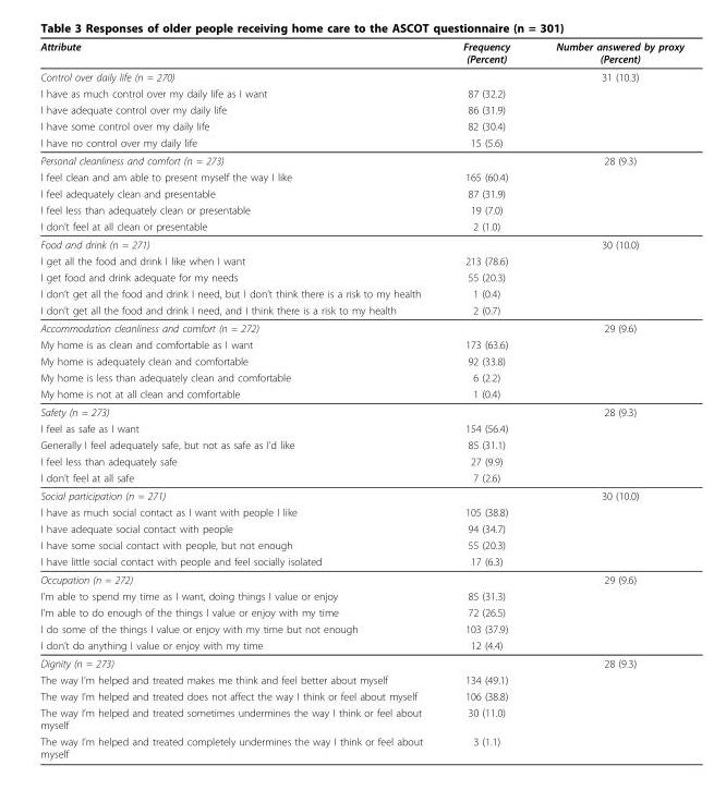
<table><thead><tr><td>Attribute</td><td>Frequency (Percent)</td><td>Number answered by proxy (Percent)</td></tr></thead><tbody><tr><td>Control over daily life (n = 270)</td><td></td><td>31 (10.3)</td></tr><tr><td>I have as much control over my daily life as I want</td><td>87 (32.2)</td><td></td></tr><tr><td>I have adequate control over my daily life</td><td>86 (31.9)</td><td></td></tr><tr><td>I have some control over my daily life</td><td>82 (30.4)</td><td></td></tr><tr><td>I have no control over my daily life</td><td>15 (5.6)</td><td></td></tr><tr><td>Personal cleanliness and comfort (n = 273)</td><td></td><td>28 (9.3)</td></tr><tr><td>I feel clean and am able to present myself the way I like</td><td>165 (60.4)</td><td></td></tr><tr><td>I feel adequately clean and presentable</td><td>87 (31.9)</td><td></td></tr><tr><td>I feel less than adequately clean or presentable</td><td>19 (7.0)</td><td></td></tr><tr><td>I don’t feel at all clean or presentable</td><td>2 (1.0)</td><td></td></tr><tr><td>Food and drink (n = 271)</td><td></td><td>30 (10.0)</td></tr><tr><td>I get all the food and drink I like when I want</td><td>213 (78.6)</td><td></td></tr><tr><td>I get food and drink adequate for my needs</td><td>55 (20.3)</td><td></td></tr><tr><td>I don’t get all the food and drink I need, but I don’t think there is a risk to my health</td><td>1 (0.4)</td><td></td></tr><tr><td>I don’t get all the food and drink I need, and I think there is a risk to my health</td><td>2 (0.7)</td><td></td></tr><tr><td>Accommodation cleanliness and comfort (n = 272)</td><td></td><td>29 (9.6)</td></tr><tr><td>My home is as clean and comfortable as I want</td><td>173 (63.6)</td><td></td></tr><tr><td>My home is adequately clean and comfortable</td><td>92 (33.8)</td><td></td></tr><tr><td>My home is less than adequately clean and comfortable</td><td>6 (2.2)</td><td></td></tr><tr><td>My home is not at all clean and comfortable</td><td>1 (0.4)</td><td></td></tr><tr><td>Safety (n = 273)</td><td></td><td>28 (9.3)</td></tr><tr><td>I feel as safe as I want</td><td>154 (56.4)</td><td></td></tr><tr><td>Generally I feel adequately safe, but not as safe as I’d like</td><td>85 (31.1)</td><td></td></tr><tr><td>I feel less than adequately safe</td><td>27 (9.9)</td><td></td></tr><tr><td>I don’t feel at all safe</td><td>7 (2.6)</td><td></td></tr><tr><td>Social participation (n = 271)</td><td></td><td>30 (10.0)</td></tr><tr><td>I have as much social contact as I want with people I like</td><td>105 (38.8)</td><td></td></tr><tr><td>I have adequate social contact with people</td><td>94 (34.7)</td><td></td></tr><tr><td>I have some social contact with people, but not enough</td><td>55 (20.3)</td><td></td></tr><tr><td>I have little social contact with people and feel socially isolated</td><td>17 (6.3)</td><td></td></tr><tr><td>Occupation (n = 272)</td><td></td><td>29 (9.6)</td></tr><tr><td>I’m able to spend my time as I want, doing things I value or enjoy</td><td>85 (31.3)</td><td></td></tr><tr><td>I’m able to do enough of the things I value or enjoy with my time</td><td>72 (26.5)</td><td></td></tr><tr><td>I do some of the things I value or enjoy with my time but not enough</td><td>103 (37.9)</td><td></td></tr><tr><td>I don’t do anything I value or enjoy with my time</td><td>12 (4.4)</td><td></td></tr><tr><td>Dignity (n = 273)</td><td></td><td>28 (9.3)</td></tr><tr><td>The way I’m helped and treated makes me think and feel better about myself</td><td>134 (49.1)</td><td></td></tr><tr><td>The way I’m helped and treated does not affect the way I think or feel about myself</td><td>106 (38.8)</td><td></td></tr><tr><td>The way I’m helped and treated sometimes undermines the way I think or feel about myself</td><td>30 (11.0)</td><td></td></tr><tr><td>The way I’m helped and treated completely undermines the way I think or feel about myself</td><td>3 (1.1)</td><td></td></tr></tbody></table>